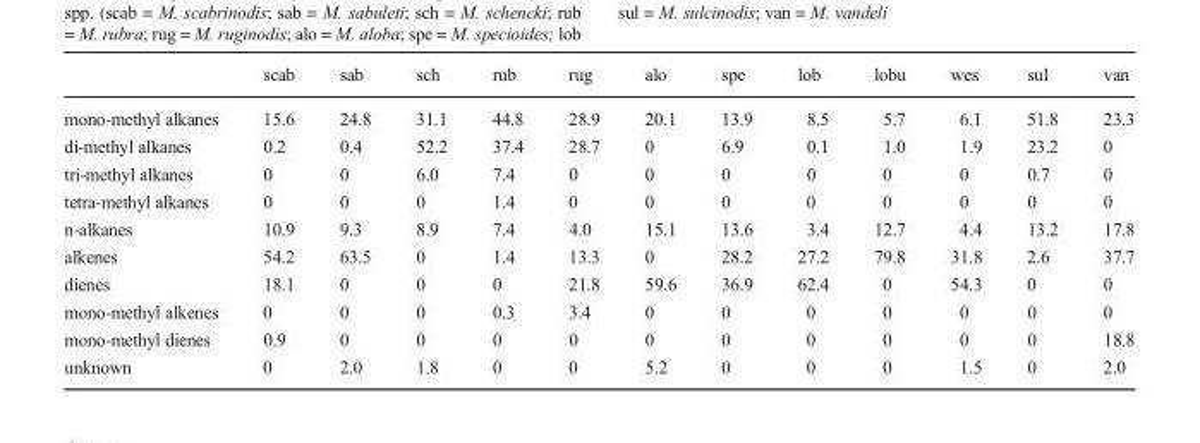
<table><thead><tr><td></td><td>scab</td><td>sab</td><td>sch</td><td>rub</td><td>rug</td><td>alo</td><td>spe</td><td>lob</td><td>lobu</td><td>wes</td><td>sul</td><td>van</td></tr></thead><tbody><tr><td>mono-methyl alkanes</td><td>15.6</td><td>24.8</td><td>31.1</td><td>44.8</td><td>28.9</td><td>20.1</td><td>13.9</td><td>8.5</td><td>5.7</td><td>6.1</td><td>51.8</td><td>23.3</td></tr><tr><td>di-methyl alkanes</td><td>0.2</td><td>0.4</td><td>52.2</td><td>37.4</td><td>28.7</td><td>0</td><td>6.9</td><td>0.1</td><td>1.0</td><td>1.9</td><td>23.2</td><td>0</td></tr><tr><td>tri-methyl alkanes</td><td>0</td><td>0</td><td>6.0</td><td>7.4</td><td>0</td><td>0</td><td>0</td><td>0</td><td>0</td><td>0</td><td>0.7</td><td>0</td></tr><tr><td>tetra-methyl alkanes</td><td>0</td><td>0</td><td>0</td><td>1.4</td><td>0</td><td>0</td><td>0</td><td>0</td><td>0</td><td>0</td><td>0</td><td>0</td></tr><tr><td>n-alkanes</td><td>10.9</td><td>9.3</td><td>8.9</td><td>7.4</td><td>4.0</td><td>15.1</td><td>13.6</td><td>3.4</td><td>12.7</td><td>4.4</td><td>13.2</td><td>17.8</td></tr><tr><td>alkenes</td><td>54.2</td><td>63.5</td><td>0</td><td>1.4</td><td>13.3</td><td>0</td><td>28.2</td><td>27.2</td><td>79.8</td><td>31.8</td><td>2.6</td><td>37.7</td></tr><tr><td>dienes</td><td>18.1</td><td>0</td><td>0</td><td>0</td><td>21.8</td><td>59.6</td><td>36.9</td><td>62.4</td><td>0</td><td>54.3</td><td>0</td><td>0</td></tr><tr><td>mono-methyl alkenes</td><td>0</td><td>0</td><td>0</td><td>0.3</td><td>3.4</td><td>0</td><td>0</td><td>0</td><td>0</td><td>0</td><td>0</td><td>0</td></tr><tr><td>mono-methyl dienes</td><td>0.9</td><td>0</td><td>0</td><td>0</td><td>0</td><td>0</td><td>0</td><td>0</td><td>0</td><td>0</td><td>0</td><td>18.8</td></tr><tr><td>unknown</td><td>0</td><td>2.0</td><td>1.8</td><td>0</td><td>0</td><td>5.2</td><td>0</td><td>0</td><td>0</td><td>1.5</td><td>0</td><td>2.0</td></tr></tbody></table>